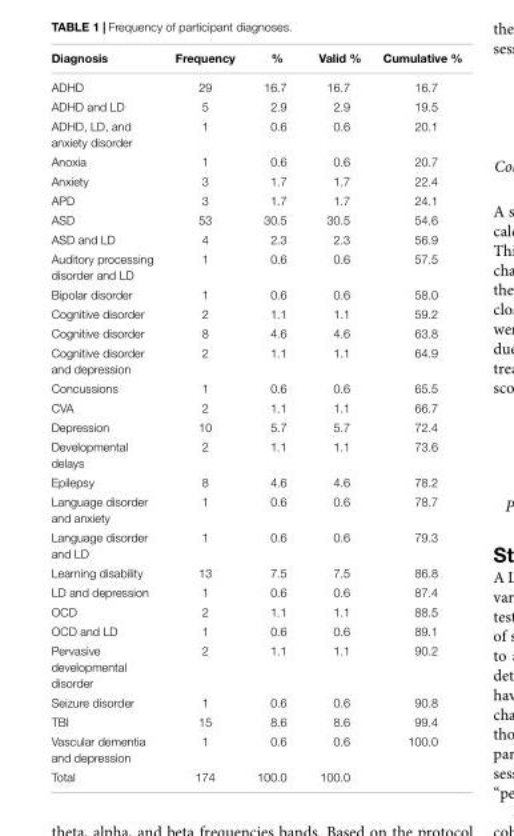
<table><thead><tr><td>Diagnosis</td><td>Frequency</td><td>%</td><td>Valid %</td><td>Cumulative %</td></tr></thead><tbody><tr><td>ADHD</td><td>29</td><td>16.7</td><td>16.7</td><td>16.7</td></tr><tr><td>ADHD and LD</td><td>5</td><td>2.9</td><td>2.9</td><td>19.5</td></tr><tr><td>ADHD, LD, and anxiety disorder</td><td>1</td><td>0.6</td><td>0.6</td><td>20.1</td></tr><tr><td>Anoxia</td><td>1</td><td>0.6</td><td>0.6</td><td>20.7</td></tr><tr><td>Anxiety</td><td>3</td><td>1.7</td><td>1.7</td><td>22.4</td></tr><tr><td>APD</td><td>3</td><td>1.7</td><td>1.7</td><td>24.1</td></tr><tr><td>ASD</td><td>53</td><td>30.5</td><td>30.5</td><td>54.6</td></tr><tr><td>ASD and LD</td><td>4</td><td>2.3</td><td>2.3</td><td>56.9</td></tr><tr><td>Auditory processing disorder and LD</td><td>1</td><td>0.6</td><td>0.6</td><td>57.5</td></tr><tr><td>Bipolar disorder</td><td>1</td><td>0.6</td><td>0.6</td><td>58.0</td></tr><tr><td>Cognitive disorder</td><td>2</td><td>1.1</td><td>1.1</td><td>59.2</td></tr><tr><td>Cognitive disorder</td><td>8</td><td>4.6</td><td>4.6</td><td>63.8</td></tr><tr><td>Cognitive disorder and depression</td><td>2</td><td>1.1</td><td>1.1</td><td>64.9</td></tr><tr><td>Concussions</td><td>1</td><td>0.6</td><td>0.6</td><td>65.5</td></tr><tr><td>CVA</td><td>2</td><td>1.1</td><td>1.1</td><td>66.7</td></tr><tr><td>Depression</td><td>10</td><td>5.7</td><td>5.7</td><td>72.4</td></tr><tr><td>Developmental delays</td><td>2</td><td>1.1</td><td>1.1</td><td>73.6</td></tr><tr><td>Epilepsy</td><td>8</td><td>4.6</td><td>4.6</td><td>78.2</td></tr><tr><td>Language disorder and anxiety</td><td>1</td><td>0.6</td><td>0.6</td><td>78.7</td></tr><tr><td>Language disorder and LD</td><td>1</td><td>0.6</td><td>0.6</td><td>79.3</td></tr><tr><td>Learning disability</td><td>13</td><td>7.5</td><td>7.5</td><td>86.8</td></tr><tr><td>LD and depression</td><td>1</td><td>0.6</td><td>0.6</td><td>87.4</td></tr><tr><td>OCD</td><td>2</td><td>1.1</td><td>1.1</td><td>88.5</td></tr><tr><td>OCD and LD</td><td>1</td><td>0.6</td><td>0.6</td><td>89.1</td></tr><tr><td>Pervasive developmental disorder</td><td>2</td><td>1.1</td><td>1.1</td><td>90.2</td></tr><tr><td>Seizure disorder</td><td>1</td><td>0.6</td><td>0.6</td><td>90.8</td></tr><tr><td>TBI</td><td>15</td><td>8.6</td><td>8.6</td><td>99.4</td></tr><tr><td>Vascular dementia and depression</td><td>1</td><td>0.6</td><td>0.6</td><td>100.0</td></tr><tr><td>Total</td><td>174</td><td>100.0</td><td>100.0</td><td></td></tr></tbody></table>